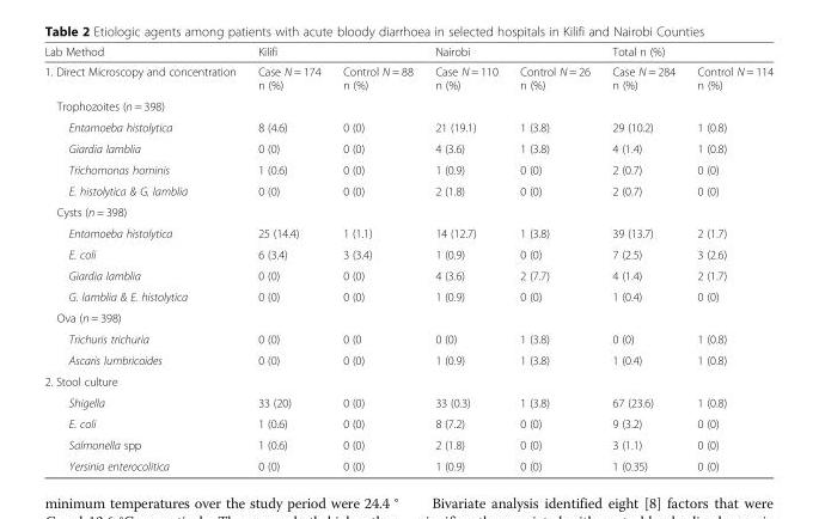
<table><thead><tr><td rowspan="2">Lab Method 1. Direct Microscopy and concentration</td><td colspan="2">Kilifi</td><td colspan="2">Nairobi</td><td colspan="2">Total n (%)</td></tr><tr><td>Case N = 174 n (%)</td><td>Control N = 88 n (%)</td><td>Case N = 110 n (%)</td><td>Control N = 26 n (%)</td><td>Case N = 284 n (%)</td><td>Control N = 114 n (%)</td></tr></thead><tbody><tr><td colspan="7">Trophozoites (n = 398)</td></tr><tr><td>Entamoeba histolytica</td><td>8 (4.6)</td><td>0 (0)</td><td>21 (19.1)</td><td>1 (3.8)</td><td>29 (10.2)</td><td>1 (0.8)</td></tr><tr><td>Giardia lamblia</td><td>0 (0)</td><td>0 (0)</td><td>4 (3.6)</td><td>1 (3.8)</td><td>4 (1.4)</td><td>1 (0.8)</td></tr><tr><td>Trichomonas hominis</td><td>1 (0.6)</td><td>0 (0)</td><td>1 (0.9)</td><td>0 (0)</td><td>2 (0.7)</td><td>0 (0)</td></tr><tr><td>E. histolytica &amp; G. lamblia</td><td>0 (0)</td><td>0 (0)</td><td>2 (1.8)</td><td>0 (0)</td><td>2 (0.7)</td><td>0 (0)</td></tr><tr><td colspan="7">Cysts (n = 398)</td></tr><tr><td>Entamoeba histolytica</td><td>25 (14.4)</td><td>1 (1.1)</td><td>14 (12.7)</td><td>1 (3.8)</td><td>39 (13.7)</td><td>2 (1.7)</td></tr><tr><td>E. coli</td><td>6 (3.4)</td><td>3 (3.4)</td><td>1 (0.9)</td><td>0 (0)</td><td>7 (2.5)</td><td>3 (2.6)</td></tr><tr><td>Giardia lamblia</td><td>0 (0)</td><td>0 (0)</td><td>4 (3.6)</td><td>2 (7.7)</td><td>4 (1.4)</td><td>2 (1.7)</td></tr><tr><td>G. lamblia &amp; E. histolytica</td><td>0 (0)</td><td>0 (0)</td><td>1 (0.9)</td><td>0 (0)</td><td>1 (0.4)</td><td>0 (0)</td></tr><tr><td colspan="7">Ova (n = 398)</td></tr><tr><td>Trichuris trichuria</td><td>0 (0)</td><td>0 (0</td><td>0 (0)</td><td>1 (3.8)</td><td>0 (0)</td><td>1 (0.8)</td></tr><tr><td>Ascaris lumbricoides</td><td>0 (0)</td><td>0 (0)</td><td>1 (0.9)</td><td>1 (3.8)</td><td>1 (0.4)</td><td>1 (0.8)</td></tr><tr><td colspan="7">2. Stool culture</td></tr><tr><td>Shigella</td><td>33 (20)</td><td>0 (0)</td><td>33 (0.3)</td><td>1 (3.8)</td><td>67 (23.6)</td><td>1 (0.8)</td></tr><tr><td>E. coli</td><td>1 (0.6)</td><td>0 (0)</td><td>8 (7.2)</td><td>0 (0)</td><td>9 (3.2)</td><td>0 (0)</td></tr><tr><td>Salmonella spp</td><td>1 (0.6)</td><td>0 (0)</td><td>2 (1.8)</td><td>0 (0)</td><td>3 (1.1)</td><td>0 (0)</td></tr><tr><td>Yersinia enterocolitica</td><td>0 (0)</td><td>0 (0)</td><td>1 (0.9)</td><td>0 (0)</td><td>1 (0.35)</td><td>0 (0)</td></tr></tbody></table>